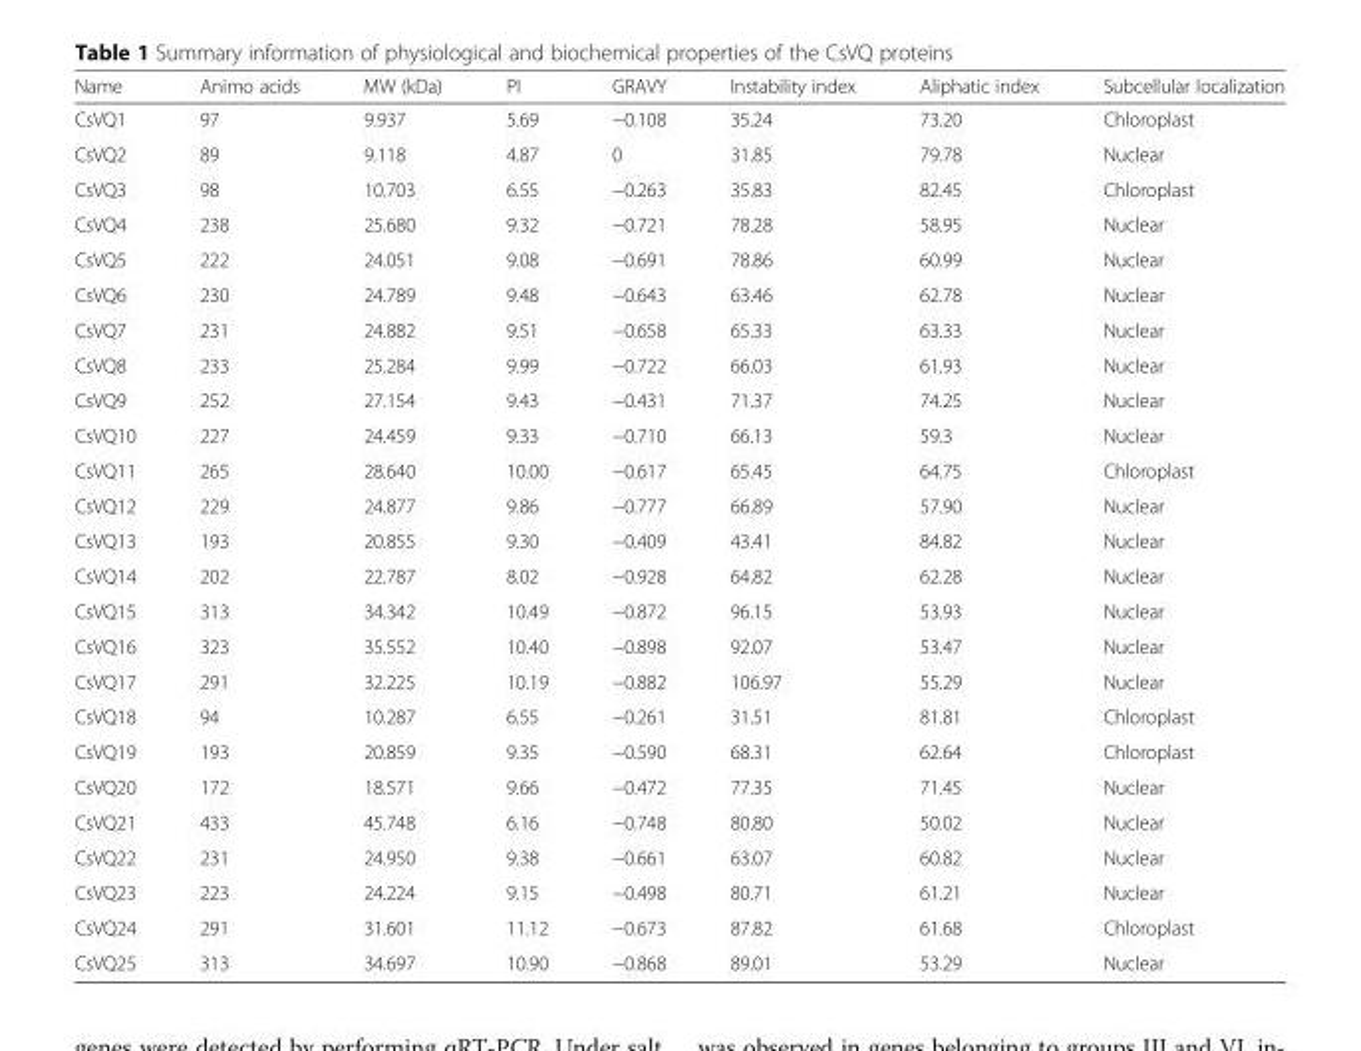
<table><thead><tr><td>Name</td><td>Animo acids</td><td>MW (kDa)</td><td>PI</td><td>GRAVY</td><td>Instability index</td><td>Aliphatic index</td><td>Subcellular localization</td></tr></thead><tbody><tr><td>CsVQ1</td><td>97</td><td>9.937</td><td>5.69</td><td>−0.108</td><td>35.24</td><td>73.20</td><td>Chloroplast</td></tr><tr><td>CsVQ2</td><td>89</td><td>9.118</td><td>4.87</td><td>0</td><td>31.85</td><td>79.78</td><td>Nuclear</td></tr><tr><td>CsVQ3</td><td>98</td><td>10.703</td><td>6.55</td><td>−0.263</td><td>35.83</td><td>82.45</td><td>Chloroplast</td></tr><tr><td>CsVQ4</td><td>238</td><td>25.680</td><td>9.32</td><td>−0.721</td><td>78.28</td><td>58.95</td><td>Nuclear</td></tr><tr><td>CsVQ5</td><td>222</td><td>24.051</td><td>9.08</td><td>−0.691</td><td>78.86</td><td>60.99</td><td>Nuclear</td></tr><tr><td>CsVQ6</td><td>230</td><td>24.789</td><td>9.48</td><td>−0.643</td><td>63.46</td><td>62.78</td><td>Nuclear</td></tr><tr><td>CsVQ7</td><td>231</td><td>24.882</td><td>9.51</td><td>−0.658</td><td>65.33</td><td>63.33</td><td>Nuclear</td></tr><tr><td>CsVQ8</td><td>233</td><td>25.284</td><td>9.99</td><td>−0.722</td><td>66.03</td><td>61.93</td><td>Nuclear</td></tr><tr><td>CsVQ9</td><td>252</td><td>27.154</td><td>9.43</td><td>−0.431</td><td>71.37</td><td>74.25</td><td>Nuclear</td></tr><tr><td>CsVQ10</td><td>227</td><td>24.459</td><td>9.33</td><td>−0.710</td><td>66.13</td><td>59.3</td><td>Nuclear</td></tr><tr><td>CsVQ11</td><td>265</td><td>28.640</td><td>10.00</td><td>−0.617</td><td>65.45</td><td>64.75</td><td>Chloroplast</td></tr><tr><td>CsVQ12</td><td>229</td><td>24.877</td><td>9.86</td><td>−0.777</td><td>66.89</td><td>57.90</td><td>Nuclear</td></tr><tr><td>CsVQ13</td><td>193</td><td>20.855</td><td>9.30</td><td>−0.409</td><td>43.41</td><td>84.82</td><td>Nuclear</td></tr><tr><td>CsVQ14</td><td>202</td><td>22.787</td><td>8.02</td><td>−0.928</td><td>64.82</td><td>62.28</td><td>Nuclear</td></tr><tr><td>CsVQ15</td><td>313</td><td>34.342</td><td>10.49</td><td>−0.872</td><td>96.15</td><td>53.93</td><td>Nuclear</td></tr><tr><td>CsVQ16</td><td>323</td><td>35.552</td><td>10.40</td><td>−0.898</td><td>92.07</td><td>53.47</td><td>Nuclear</td></tr><tr><td>CsVQ17</td><td>291</td><td>32.225</td><td>10.19</td><td>−0.882</td><td>106.97</td><td>55.29</td><td>Nuclear</td></tr><tr><td>CsVQ18</td><td>94</td><td>10.287</td><td>6.55</td><td>−0.261</td><td>31.51</td><td>81.81</td><td>Chloroplast</td></tr><tr><td>CsVQ19</td><td>193</td><td>20.859</td><td>9.35</td><td>−0.590</td><td>68.31</td><td>62.64</td><td>Chloroplast</td></tr><tr><td>CsVQ20</td><td>172</td><td>18.571</td><td>9.66</td><td>−0.472</td><td>77.35</td><td>71.45</td><td>Nuclear</td></tr><tr><td>CsVQ21</td><td>433</td><td>45.748</td><td>6.16</td><td>−0.748</td><td>80.80</td><td>50.02</td><td>Nuclear</td></tr><tr><td>CsVQ22</td><td>231</td><td>24.950</td><td>9.38</td><td>−0.661</td><td>63.07</td><td>60.82</td><td>Nuclear</td></tr><tr><td>CsVQ23</td><td>223</td><td>24.224</td><td>9.15</td><td>−0.498</td><td>80.71</td><td>61.21</td><td>Nuclear</td></tr><tr><td>CsVQ24</td><td>291</td><td>31.601</td><td>11.12</td><td>−0.673</td><td>87.82</td><td>61.68</td><td>Chloroplast</td></tr><tr><td>CsVQ25</td><td>313</td><td>34.697</td><td>10.90</td><td>−0.868</td><td>89.01</td><td>53.29</td><td>Nuclear</td></tr></tbody></table>